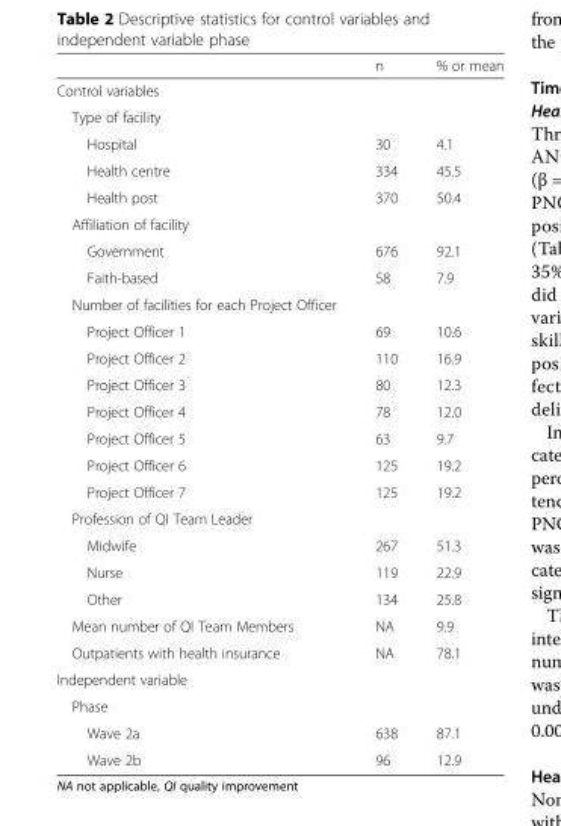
<table><thead><tr><td></td><td>n</td><td>% or mean</td></tr></thead><tbody><tr><td colspan="3">Control variables</td></tr><tr><td colspan="3">Type of facility</td></tr><tr><td>Hospital</td><td>30</td><td>4.1</td></tr><tr><td>Health centre</td><td>334</td><td>45.5</td></tr><tr><td>Health post</td><td>370</td><td>50.4</td></tr><tr><td colspan="3">Affiliation of facility</td></tr><tr><td>Government</td><td>676</td><td>92.1</td></tr><tr><td>Faith-based</td><td>58</td><td>7.9</td></tr><tr><td colspan="3">Number of facilities for each Project Officer</td></tr><tr><td>Project Officer 1</td><td>69</td><td>10.6</td></tr><tr><td>Project Officer 2</td><td>110</td><td>16.9</td></tr><tr><td>Project Officer 3</td><td>80</td><td>12.3</td></tr><tr><td>Project Officer 4</td><td>78</td><td>12.0</td></tr><tr><td>Project Officer 5</td><td>63</td><td>9.7</td></tr><tr><td>Project Officer 6</td><td>125</td><td>19.2</td></tr><tr><td>Project Officer 7</td><td>125</td><td>19.2</td></tr><tr><td colspan="3">Profession of QI Team Leader</td></tr><tr><td>Midwife</td><td>267</td><td>51.3</td></tr><tr><td>Nurse</td><td>119</td><td>22.9</td></tr><tr><td>Other</td><td>134</td><td>25.8</td></tr><tr><td>Mean number of QI Team Members</td><td>NA</td><td>9.9</td></tr><tr><td>Outpatients with health insurance</td><td>NA</td><td>78.1</td></tr><tr><td colspan="3">Independent variable</td></tr><tr><td colspan="3">Phase</td></tr><tr><td>Wave 2a</td><td>638</td><td>87.1</td></tr><tr><td>Wave 2b</td><td>96</td><td>12.9</td></tr></tbody></table>